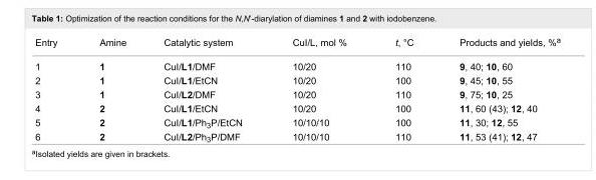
<table><tbody><tr><td>Entry</td><td>Amine</td><td>Catalytic system</td><td>CuI/L, mol %</td><td>t, °C</td><td>Products and yields, %<sup>a</sup></td></tr><tr><td>1</td><td>1</td><td>CuI/L1/DMF</td><td>10/20</td><td>110</td><td>9, 40; 10, 60</td></tr><tr><td>2</td><td>1</td><td>CuI/L1/EtCN</td><td>10/20</td><td>100</td><td>9, 45; 10, 55</td></tr><tr><td>3</td><td>1</td><td>CuI/L2/DMF</td><td>10/20</td><td>110</td><td>9, 75; 10, 25</td></tr><tr><td>4</td><td>2</td><td>CuI/L1/EtCN</td><td>10/20</td><td>100</td><td>11, 60 (43); 12, 40</td></tr><tr><td>5</td><td>2</td><td>CuI/L1/Ph<sub>3</sub>P/EtCN</td><td>10/10/10</td><td>100</td><td>11, 30; 12, 55</td></tr><tr><td>6</td><td>2</td><td>CuI/L2/Ph<sub>3</sub>P/DMF</td><td>10/10/10</td><td>110</td><td>11, 53 (41); 12, 47</td></tr></tbody></table>